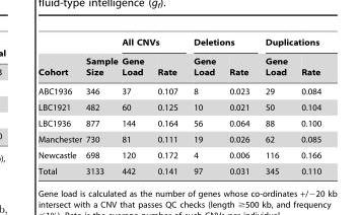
<table><thead><tr><td rowspan="2">Cohort</td><td rowspan="2">Sample Size</td><td colspan="2">All CNVs</td><td colspan="2">Deletions</td><td colspan="2">Duplications</td></tr><tr><td>Gene Load</td><td>Rate</td><td>Gene Load</td><td>Rate</td><td>Gene Load</td><td>Rate</td></tr></thead><tbody><tr><td>ABC1936</td><td>346</td><td>37</td><td>0.107</td><td>8</td><td>0.023</td><td>29</td><td>0.084</td></tr><tr><td>LBC1921</td><td>482</td><td>60</td><td>0.125</td><td>10</td><td>0.021</td><td>50</td><td>0.104</td></tr><tr><td>LBC1936</td><td>877</td><td>144</td><td>0.164</td><td>56</td><td>0.064</td><td>88</td><td>0.100</td></tr><tr><td>Manchester</td><td>730</td><td>81</td><td>0.111</td><td>19</td><td>0.026</td><td>62</td><td>0.085</td></tr><tr><td>Newcastle</td><td>698</td><td>120</td><td>0.172</td><td>4</td><td>0.006</td><td>116</td><td>0.166</td></tr><tr><td>Total</td><td>3133</td><td>442</td><td>0.141</td><td>97</td><td>0.031</td><td>345</td><td>0.110</td></tr></tbody></table>